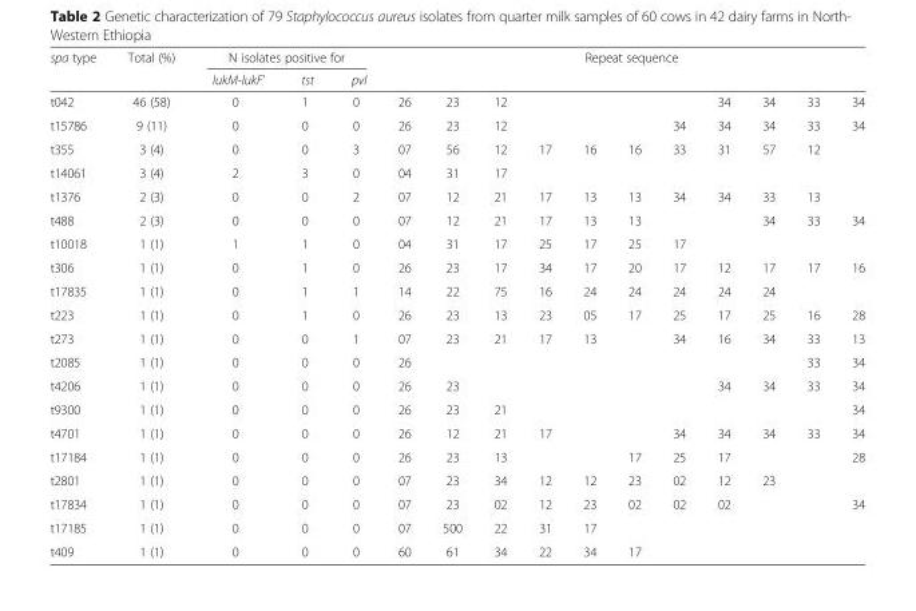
<table><thead><tr><td rowspan="3">spa type t042</td><td rowspan="3">Total (%) 46 (58)</td><td colspan="3">N isolates positive for</td><td rowspan="2" colspan="11">Repeat sequence</td></tr><tr><td rowspan="2">lukM-lukF’ 0</td><td rowspan="2">tst 1</td><td rowspan="2">pvl 0</td></tr><tr><td>26</td><td>23</td><td>12</td><td></td><td></td><td></td><td></td><td>34</td><td>34</td><td>33</td><td>34</td></tr></thead><tbody><tr><td>t15786</td><td>9 (11)</td><td>0</td><td>0</td><td>0</td><td>26</td><td>23</td><td>12</td><td></td><td></td><td></td><td>34</td><td>34</td><td>34</td><td>33</td><td>34</td></tr><tr><td>t355</td><td>3 (4)</td><td>0</td><td>0</td><td>3</td><td>07</td><td>56</td><td>12</td><td>17</td><td>16</td><td>16</td><td>33</td><td>31</td><td>57</td><td>12</td><td></td></tr><tr><td>t14061</td><td>3 (4)</td><td>2</td><td>3</td><td>0</td><td>04</td><td>31</td><td>17</td><td></td><td></td><td></td><td></td><td></td><td></td><td></td><td></td></tr><tr><td>t1376</td><td>2 (3)</td><td>0</td><td>0</td><td>2</td><td>07</td><td>12</td><td>21</td><td>17</td><td>13</td><td>13</td><td>34</td><td>34</td><td>33</td><td>13</td><td></td></tr><tr><td>t488</td><td>2 (3)</td><td>0</td><td>0</td><td>0</td><td>07</td><td>12</td><td>21</td><td>17</td><td>13</td><td>13</td><td></td><td></td><td>34</td><td>33</td><td>34</td></tr><tr><td>t10018</td><td>1 (1)</td><td>1</td><td>1</td><td>0</td><td>04</td><td>31</td><td>17</td><td>25</td><td>17</td><td>25</td><td>17</td><td></td><td></td><td></td><td></td></tr><tr><td>t306</td><td>1 (1)</td><td>0</td><td>1</td><td>0</td><td>26</td><td>23</td><td>17</td><td>34</td><td>17</td><td>20</td><td>17</td><td>12</td><td>17</td><td>17</td><td>16</td></tr><tr><td>t17835</td><td>1 (1)</td><td>0</td><td>1</td><td>1</td><td>14</td><td>22</td><td>75</td><td>16</td><td>24</td><td>24</td><td>24</td><td>24</td><td>24</td><td></td><td></td></tr><tr><td>t223</td><td>1 (1)</td><td>0</td><td>1</td><td>0</td><td>26</td><td>23</td><td>13</td><td>23</td><td>05</td><td>17</td><td>25</td><td>17</td><td>25</td><td>16</td><td>28</td></tr><tr><td>t273</td><td>1 (1)</td><td>0</td><td>0</td><td>1</td><td>07</td><td>23</td><td>21</td><td>17</td><td>13</td><td></td><td>34</td><td>16</td><td>34</td><td>33</td><td>13</td></tr><tr><td>t2085</td><td>1 (1)</td><td>0</td><td>0</td><td>0</td><td>26</td><td></td><td></td><td></td><td></td><td></td><td></td><td></td><td></td><td>33</td><td>34</td></tr><tr><td>t4206</td><td>1 (1)</td><td>0</td><td>0</td><td>0</td><td>26</td><td>23</td><td></td><td></td><td></td><td></td><td></td><td>34</td><td>34</td><td>33</td><td>34</td></tr><tr><td>t9300</td><td>1 (1)</td><td>0</td><td>0</td><td>0</td><td>26</td><td>23</td><td>21</td><td></td><td></td><td></td><td></td><td></td><td></td><td></td><td>34</td></tr><tr><td>t4701</td><td>1 (1)</td><td>0</td><td>0</td><td>0</td><td>26</td><td>12</td><td>21</td><td>17</td><td></td><td></td><td>34</td><td>34</td><td>34</td><td>33</td><td>34</td></tr><tr><td>t17184</td><td>1 (1)</td><td>0</td><td>0</td><td>0</td><td>26</td><td>23</td><td>13</td><td></td><td></td><td>17</td><td>25</td><td>17</td><td></td><td></td><td>28</td></tr><tr><td>t2801</td><td>1 (1)</td><td>0</td><td>0</td><td>0</td><td>07</td><td>23</td><td>34</td><td>12</td><td>12</td><td>23</td><td>02</td><td>12</td><td>23</td><td></td><td></td></tr><tr><td>t17834</td><td>1 (1)</td><td>0</td><td>0</td><td>0</td><td>07</td><td>23</td><td>02</td><td>12</td><td>23</td><td>02</td><td>02</td><td>02</td><td></td><td></td><td>34</td></tr><tr><td>t17185</td><td>1 (1)</td><td>0</td><td>0</td><td>0</td><td>07</td><td>500</td><td>22</td><td>31</td><td>17</td><td></td><td></td><td></td><td></td><td></td><td></td></tr><tr><td>t409</td><td>1 (1)</td><td>0</td><td>0</td><td>0</td><td>60</td><td>61</td><td>34</td><td>22</td><td>34</td><td>17</td><td></td><td></td><td></td><td></td><td></td></tr></tbody></table>